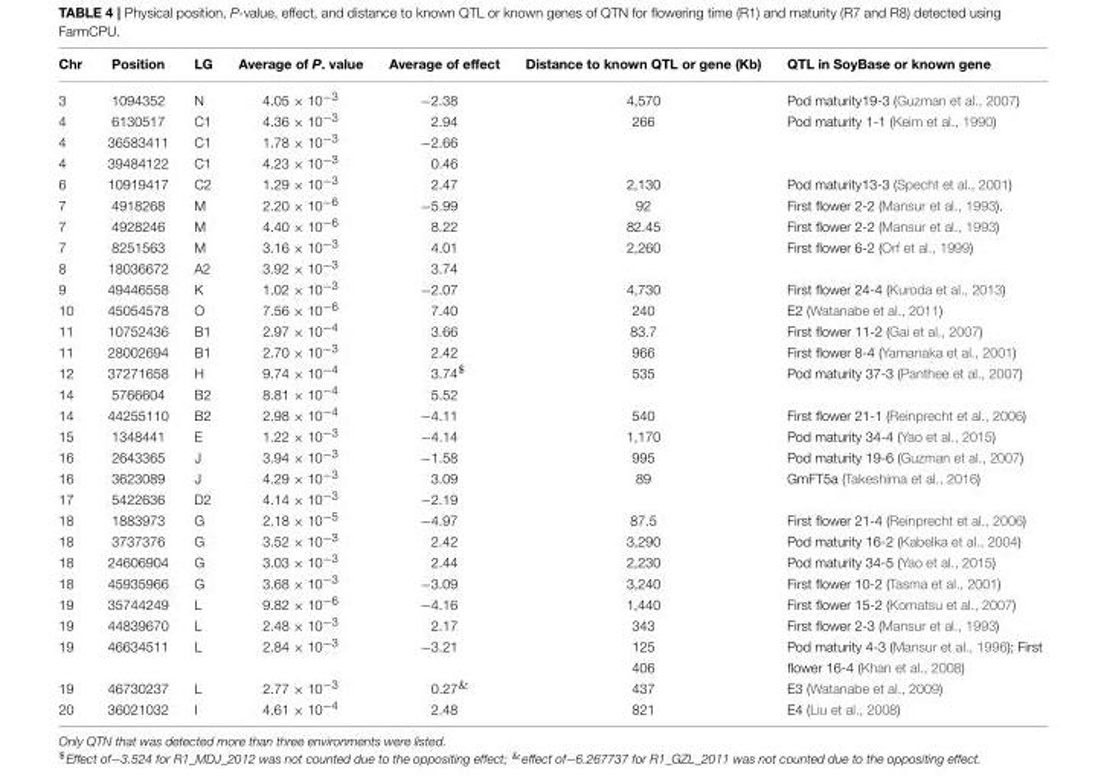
<table><thead><tr><td>Chr</td><td>Position</td><td>LG</td><td>Average of P. value</td><td>Average of effect</td><td>Distance to known QTL or gene (Kb)</td><td>QTL in SoyBase or known gene</td></tr></thead><tbody><tr><td>3</td><td>1094352</td><td>N</td><td>4.05 × 10<sup>−3</sup></td><td>−2.38</td><td>4,570</td><td>Pod maturity19-3 (Guzman et al., 2007)</td></tr><tr><td>4</td><td>6130517</td><td>C1</td><td>4.36 × 10<sup>−3</sup></td><td>2.94</td><td>266</td><td>Pod maturity 1-1 (Keim et al., 1990)</td></tr><tr><td>4</td><td>36583411</td><td>C1</td><td>1.78 × 10<sup>−3</sup></td><td>−2.66</td><td></td><td></td></tr><tr><td>4</td><td>39484122</td><td>C1</td><td>4.23 × 10<sup>−3</sup></td><td>0.46</td><td></td><td></td></tr><tr><td>6</td><td>10919417</td><td>C2</td><td>1.29 × 10<sup>−3</sup></td><td>2.47</td><td>2,130</td><td>Pod maturity13-3 (Specht et al., 2001)</td></tr><tr><td>7</td><td>4918268</td><td>M</td><td>2.20 × 10<sup>−6</sup></td><td>−5.99</td><td>92</td><td>First flower 2-2 (Mansur et al., 1993).</td></tr><tr><td>7</td><td>4928246</td><td>M</td><td>4.40 × 10<sup>−6</sup></td><td>8.22</td><td>82.45</td><td>First flower 2-2 (Mansur et al., 1993)</td></tr><tr><td>7</td><td>8251563</td><td>M</td><td>3.16 × 10<sup>−3</sup></td><td>4.01</td><td>2,260</td><td>First flower 6-2 (Orf et al., 1999)</td></tr><tr><td>8</td><td>18036672</td><td>A2</td><td>3.92 × 10<sup>−3</sup></td><td>3.74</td><td></td><td></td></tr><tr><td>9</td><td>49446558</td><td>K</td><td>1.02 × 10<sup>−3</sup></td><td>−2.07</td><td>4,730</td><td>First flower 24-4 (Kuroda et al., 2013)</td></tr><tr><td>10</td><td>45054578</td><td>O</td><td>7.56 × 10<sup>−6</sup></td><td>7.40</td><td>240</td><td>E2 (Watanabe et al., 2011)</td></tr><tr><td>11</td><td>10752436</td><td>B1</td><td>2.97 × 10<sup>−4</sup></td><td>3.66</td><td>83.7</td><td>First flower 11-2 (Gai et al., 2007)</td></tr><tr><td>11</td><td>28002694</td><td>B1</td><td>2.70 × 10<sup>−3</sup></td><td>2.42</td><td>966</td><td>First flower 8-4 (Yamanaka et al., 2001)</td></tr><tr><td>12</td><td>37271658</td><td>H</td><td>9.74 × 10<sup>−4</sup></td><td>3.74<sup>$</sup></td><td>535</td><td>Pod maturity 37-3 (Panthee et al., 2007)</td></tr><tr><td>14</td><td>5766604</td><td>B2</td><td>8.81 × 10<sup>−4</sup></td><td>5.52</td><td></td><td></td></tr><tr><td>14</td><td>44255110</td><td>B2</td><td>2.98 × 10<sup>−4</sup></td><td>−4.11</td><td>540</td><td>First flower 21-1 (Reinprecht et al., 2006)</td></tr><tr><td>15</td><td>1348441</td><td>E</td><td>1.22 × 10<sup>−3</sup></td><td>−4.14</td><td>1,170</td><td>Pod maturity 34-4 (Yao et al., 2015)</td></tr><tr><td>16</td><td>2643365</td><td>J</td><td>3.94 × 10<sup>−3</sup></td><td>−1.58</td><td>995</td><td>Pod maturity 19-6 (Guzman et al., 2007)</td></tr><tr><td>16</td><td>3623089</td><td>J</td><td>4.29 × 10<sup>−3</sup></td><td>3.09</td><td>89</td><td>GmFT5a (Takeshima et al., 2016)</td></tr><tr><td>17</td><td>5422636</td><td>D2</td><td>4.14 × 10<sup>−3</sup></td><td>−2.19</td><td></td><td></td></tr><tr><td>18</td><td>1883973</td><td>G</td><td>2.18 × 10<sup>−5</sup></td><td>−4.97</td><td>87.5</td><td>First flower 21-4 (Reinprecht et al., 2006)</td></tr><tr><td>18</td><td>3737376</td><td>G</td><td>3.52 × 10<sup>−3</sup></td><td>2.42</td><td>3,290</td><td>Pod maturity 16-2 (Kabelka et al., 2004)</td></tr><tr><td>18</td><td>24606904</td><td>G</td><td>3.03 × 10<sup>−3</sup></td><td>2.44</td><td>2,230</td><td>Pod maturity 34-5 (Yao et al., 2015)</td></tr><tr><td>18</td><td>45935966</td><td>G</td><td>3.68 × 10<sup>−3</sup></td><td>−3.09</td><td>3,240</td><td>First flower 10-2 (Tasma et al., 2001)</td></tr><tr><td>19</td><td>35744249</td><td>L</td><td>9.82 × 10<sup>−6</sup></td><td>−4.16</td><td>1,440</td><td>First flower 15-2 (Komatsu et al., 2007)</td></tr><tr><td>19</td><td>44839670</td><td>L</td><td>2.48 × 10<sup>−3</sup></td><td>2.17</td><td>343</td><td>First flower 2-3 (Mansur et al., 1993)</td></tr><tr><td rowspan="2">19</td><td>46634511</td><td>L</td><td>2.84 × 10<sup>−3</sup></td><td>−3.21</td><td>125</td><td>Pod maturity 4-3 (Mansur et al., 1996); First</td></tr><tr><td></td><td></td><td></td><td></td><td>406</td><td>flower 16-4 (Khan et al., 2008)</td></tr><tr><td>19</td><td>46730237</td><td>L</td><td>2.77 × 10<sup>−3</sup></td><td>0.27<sup>&amp;</sup></td><td>437</td><td>E3 (Watanabe et al., 2009)</td></tr><tr><td>20</td><td>36021032</td><td>I</td><td>4.61 × 10<sup>−4</sup></td><td>2.48</td><td>821</td><td>E4 (Liu et al., 2008)</td></tr></tbody></table>